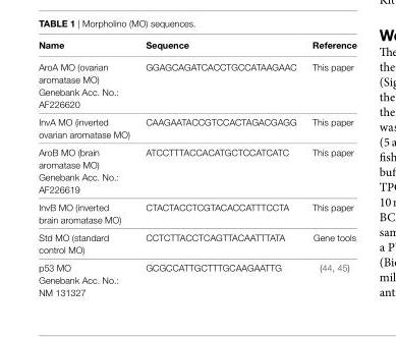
<table><thead><tr><td>name</td><td>sequence</td><td>reference</td></tr></thead><tbody><tr><td>AroA MO (ovarian aromatase MO)</td><td rowspan="2">GGAGCAGATCACCTGCCATAAGAAC</td><td rowspan="2">This paper</td></tr><tr><td>Genebank Acc. No.: AF226620</td></tr><tr><td>InvA MO (inverted ovarian aromatase MO)</td><td>CAAGAATACCGTCCACTAGACGAGG</td><td>This paper</td></tr><tr><td>AroB MO (brain aromatase MO)</td><td rowspan="2">ATCCTTTACCACATGCTCCATCATC</td><td rowspan="2">This paper</td></tr><tr><td>Genebank Acc. No.: AF226619</td></tr><tr><td>InvB MO (inverted brain aromatase MO)</td><td>CTACTACCTCGTACACCATTTCCTA</td><td>This paper</td></tr><tr><td>Std MO (standard control MO)</td><td>CCTCTTACCTCAGTTACAATTTATA</td><td>Gene tools</td></tr><tr><td>p53 MO</td><td rowspan="2">GCGCCATTGCTTTGCAAGAATTG</td><td rowspan="2">(44, 45)</td></tr><tr><td>Genebank Acc. No.: NM 131327</td></tr></tbody></table>